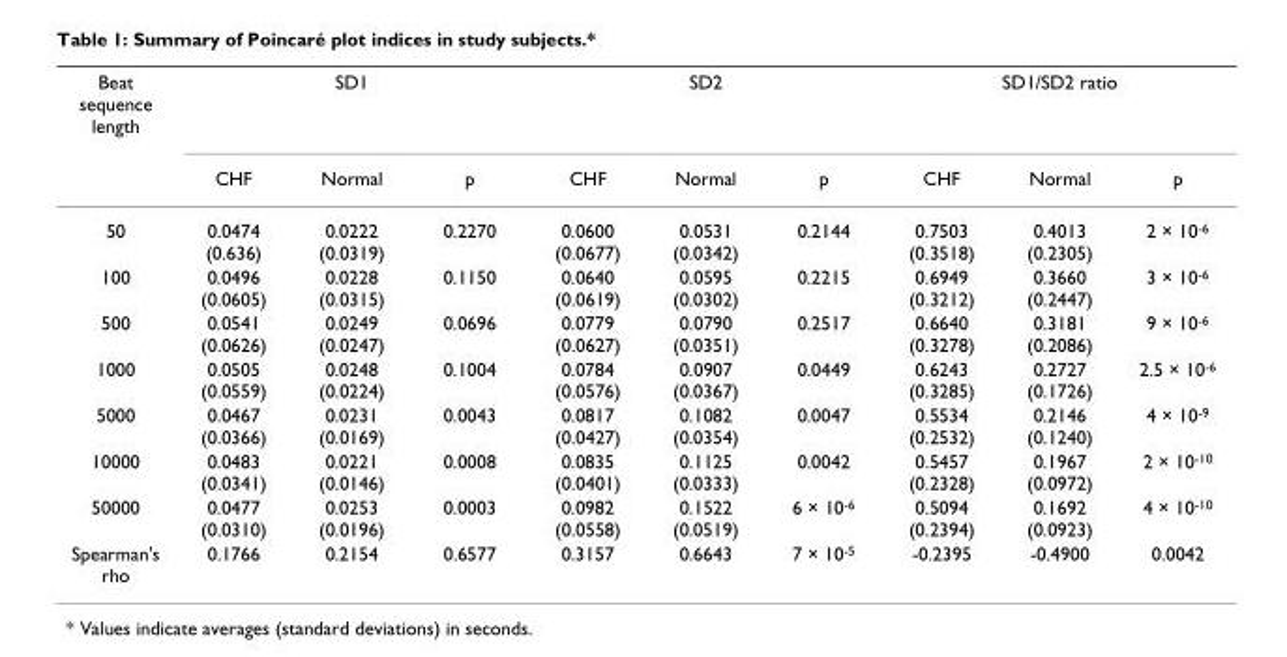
<table><thead><tr><td rowspan="2">Beat sequence length</td><td colspan="3">SD1</td><td colspan="3">SD2</td><td colspan="3">SD1/SD2 ratio</td></tr><tr><td>CHF</td><td>Normal</td><td>p</td><td>CHF</td><td>Normal</td><td>p</td><td>CHF</td><td>Normal</td><td>p</td></tr></thead><tbody><tr><td>50</td><td>0.0474 (0.636)</td><td>0.0222 (0.0319)</td><td>0.2270</td><td>0.0600 (0.0677)</td><td>0.0531 (0.0342)</td><td>0.2144</td><td>0.7503 (0.3518)</td><td>0.4013 (0.2305)</td><td>2 × 10<sup>-6</sup></td></tr><tr><td>100</td><td>0.0496 (0.0605)</td><td>0.0228 (0.0315)</td><td>0.1150</td><td>0.0640 (0.0619)</td><td>0.0595 (0.0302)</td><td>0.2215</td><td>0.6949 (0.3212)</td><td>0.3660 (0.2447)</td><td>3 × 10<sup>-6</sup></td></tr><tr><td>500</td><td>0.0541 (0.0626)</td><td>0.0249 (0.0247)</td><td>0.0696</td><td>0.0779 (0.0627)</td><td>0.0790 (0.0351)</td><td>0.2517</td><td>0.6640 (0.3278)</td><td>0.3181 (0.2086)</td><td>9 × 10<sup>-6</sup></td></tr><tr><td>1000</td><td>0.0505 (0.0559)</td><td>0.0248 (0.0224)</td><td>0.1004</td><td>0.0784 (0.0576)</td><td>0.0907 (0.0367)</td><td>0.0449</td><td>0.6243 (0.3285)</td><td>0.2727 (0.1726)</td><td>2.5 × 10<sup>-6</sup></td></tr><tr><td>5000</td><td>0.0467 (0.0366)</td><td>0.0231 (0.0169)</td><td>0.0043</td><td>0.0817 (0.0427)</td><td>0.1082 (0.0354)</td><td>0.0047</td><td>0.5534 (0.2532)</td><td>0.2146 (0.1240)</td><td>4 × 10<sup>-9</sup></td></tr><tr><td>10000</td><td>0.0483 (0.0341)</td><td>0.0221 (0.0146)</td><td>0.0008</td><td>0.0835 (0.0401)</td><td>0.1125 (0.0333)</td><td>0.0042</td><td>0.5457 (0.2328)</td><td>0.1967 (0.0972)</td><td>2 × 10<sup>-10</sup></td></tr><tr><td>50000</td><td>0.0477 (0.0310)</td><td>0.0253 (0.0196)</td><td>0.0003</td><td>0.0982 (0.0558)</td><td>0.1522 (0.0519)</td><td>6 × 10<sup>-6</sup></td><td>0.5094 (0.2394)</td><td>0.1692 (0.0923)</td><td>4 × 10<sup>-10</sup></td></tr><tr><td>Spearman&#x27;s rho</td><td>0.1766</td><td>0.2154</td><td>0.6577</td><td>0.3157</td><td>0.6643</td><td>7 × 10<sup>-5</sup></td><td>-0.2395</td><td>-0.4900</td><td>0.0042</td></tr></tbody></table>